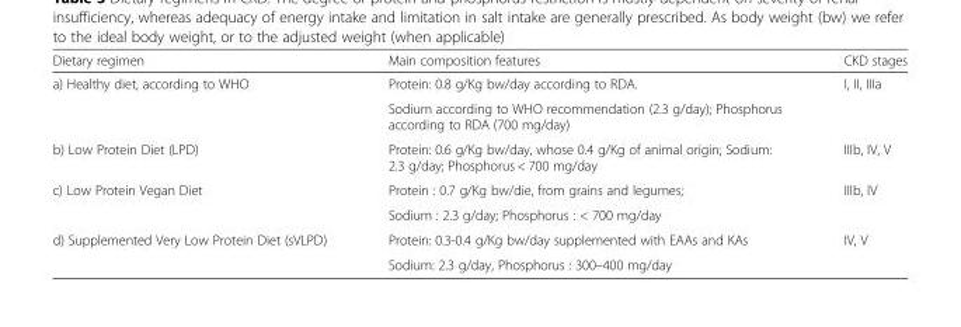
<table><thead><tr><td>Dietary regimen</td><td>Main composition features</td><td>CKD stages</td></tr></thead><tbody><tr><td rowspan="2">a) Healthy diet, according to WHO</td><td>Protein: 0.8 g/Kg bw/day according to RDA.</td><td rowspan="2">I, II, IIIa</td></tr><tr><td>Sodium according to WHO recommendation (2.3 g/day); Phosphorus according to RDA (700 mg/day)</td></tr><tr><td>b) Low Protein Diet (LPD)</td><td>Protein: 0.6 g/Kg bw/day, whose 0.4 g/Kg of animal origin; Sodium: 2.3 g/day; Phosphorus &lt; 700 mg/day</td><td>IIIb, IV, V</td></tr><tr><td rowspan="2">c) Low Protein Vegan Diet</td><td>Protein : 0.7 g/Kg bw/die, from grains and legumes;</td><td rowspan="2">IIIb, IV</td></tr><tr><td>Sodium : 2.3 g/day; Phosphorus : &lt; 700 mg/day</td></tr><tr><td rowspan="2">d) Supplemented Very Low Protein Diet (sVLPD)</td><td>Protein: 0.3-0.4 g/Kg bw/day supplemented with EAAs and KAs</td><td rowspan="2">IV, V</td></tr><tr><td>Sodium: 2.3 g/day, Phosphorus : 300–400 mg/day</td></tr></tbody></table>